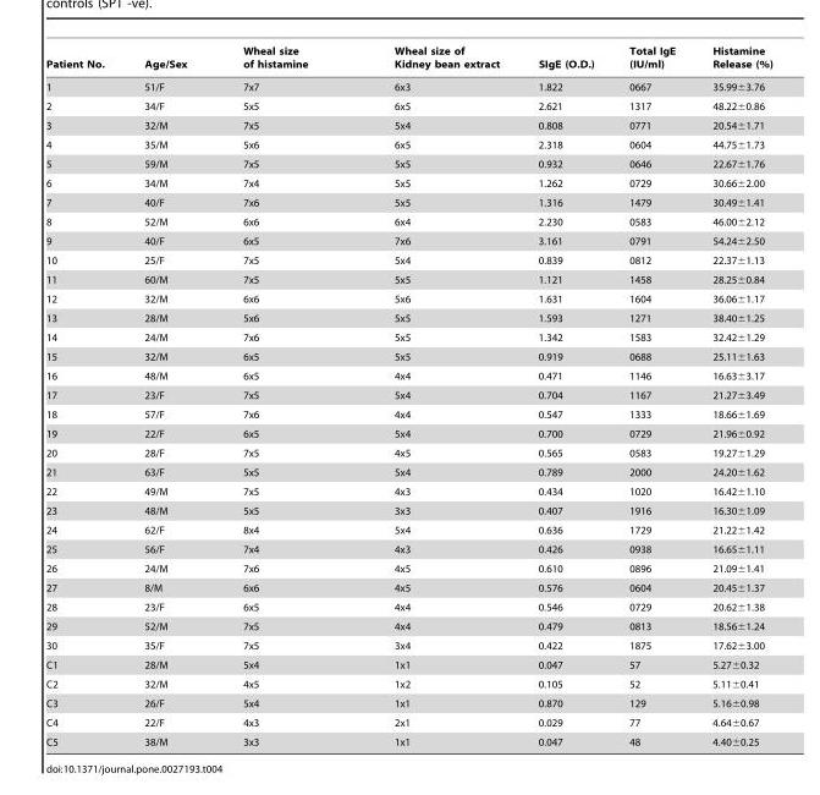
<table><thead><tr><td>Patient No.</td><td>Age/Sex</td><td>Wheal size of histamine</td><td>Wheal size of Kidney bean extract</td><td>SIgE (O.D.)</td><td>Total IgE (IU/ml)</td><td>Histamine Release (%)</td></tr></thead><tbody><tr><td>1</td><td>51/F</td><td>7x7</td><td>6x3</td><td>1.822</td><td>0667</td><td>35.99±3.76</td></tr><tr><td>2</td><td>34/F</td><td>5x5</td><td>6x5</td><td>2.621</td><td>1317</td><td>48.22±0.86</td></tr><tr><td>3</td><td>32/M</td><td>7x5</td><td>5x4</td><td>0.808</td><td>0771</td><td>20.54±1.71</td></tr><tr><td>4</td><td>35/M</td><td>5x6</td><td>6x5</td><td>2.318</td><td>0604</td><td>44.75±1.73</td></tr><tr><td>5</td><td>59/M</td><td>7x5</td><td>5x5</td><td>0.932</td><td>0646</td><td>22.67±1.76</td></tr><tr><td>6</td><td>34/M</td><td>7x4</td><td>5x5</td><td>1.262</td><td>0729</td><td>30.66±2.00</td></tr><tr><td>7</td><td>40/F</td><td>7x6</td><td>5x5</td><td>1.316</td><td>1479</td><td>30.49±1.41</td></tr><tr><td>8</td><td>52/M</td><td>6x6</td><td>6x4</td><td>2.230</td><td>0583</td><td>46.00±2.12</td></tr><tr><td>9</td><td>40/F</td><td>6x5</td><td>7x6</td><td>3.161</td><td>0791</td><td>54.24±2.50</td></tr><tr><td>10</td><td>25/F</td><td>7x5</td><td>5x4</td><td>0.839</td><td>0812</td><td>22.37±1.13</td></tr><tr><td>11</td><td>60/M</td><td>7x5</td><td>5x5</td><td>1.121</td><td>1458</td><td>28.25±0.84</td></tr><tr><td>12</td><td>32/M</td><td>6x6</td><td>5x6</td><td>1.631</td><td>1604</td><td>36.06±1.17</td></tr><tr><td>13</td><td>28/M</td><td>5x6</td><td>5x5</td><td>1.593</td><td>1271</td><td>38.40±1.25</td></tr><tr><td>14</td><td>24/M</td><td>7x6</td><td>5x5</td><td>1.342</td><td>1583</td><td>32.42±1.29</td></tr><tr><td>15</td><td>32/M</td><td>6x5</td><td>5x5</td><td>0.919</td><td>0688</td><td>25.11±1.63</td></tr><tr><td>16</td><td>48/M</td><td>6x5</td><td>4x4</td><td>0.471</td><td>1146</td><td>16.63±3.17</td></tr><tr><td>17</td><td>23/F</td><td>7x5</td><td>5x4</td><td>0.704</td><td>1167</td><td>21.27±3.49</td></tr><tr><td>18</td><td>57/F</td><td>7x6</td><td>4x4</td><td>0.547</td><td>1333</td><td>18.66±1.69</td></tr><tr><td>19</td><td>22/F</td><td>6x5</td><td>5x4</td><td>0.700</td><td>0729</td><td>21.96±0.92</td></tr><tr><td>20</td><td>28/F</td><td>7x5</td><td>4x5</td><td>0.565</td><td>0583</td><td>19.27±1.29</td></tr><tr><td>21</td><td>63/F</td><td>5x5</td><td>5x4</td><td>0.789</td><td>2000</td><td>24.20±1.62</td></tr><tr><td>22</td><td>49/M</td><td>7x5</td><td>4x3</td><td>0.434</td><td>1020</td><td>16.42±1.10</td></tr><tr><td>23</td><td>48/M</td><td>5x5</td><td>3x3</td><td>0.407</td><td>1916</td><td>16.30±1.09</td></tr><tr><td>24</td><td>62/F</td><td>8x4</td><td>5x4</td><td>0.636</td><td>1729</td><td>21.22±1.42</td></tr><tr><td>25</td><td>56/F</td><td>7x4</td><td>4x3</td><td>0.426</td><td>0938</td><td>16.65±1.11</td></tr><tr><td>26</td><td>24/M</td><td>7x6</td><td>4x5</td><td>0.610</td><td>0896</td><td>21.09±1.41</td></tr><tr><td>27</td><td>8/M</td><td>6x6</td><td>4x5</td><td>0.576</td><td>0604</td><td>20.45±1.37</td></tr><tr><td>28</td><td>23/F</td><td>6x5</td><td>4x4</td><td>0.546</td><td>0729</td><td>20.62±1.38</td></tr><tr><td>29</td><td>52/M</td><td>7x5</td><td>4x4</td><td>0.479</td><td>0813</td><td>18.56±1.24</td></tr><tr><td>30</td><td>35/F</td><td>7x5</td><td>3x4</td><td>0.422</td><td>1875</td><td>17.62±3.00</td></tr><tr><td>C1</td><td>28/M</td><td>5x4</td><td>1x1</td><td>0.047</td><td>57</td><td>5.27±0.32</td></tr><tr><td>C2</td><td>32/M</td><td>4x5</td><td>1x2</td><td>0.105</td><td>52</td><td>5.11±0.41</td></tr><tr><td>C3</td><td>26/F</td><td>5x4</td><td>1x1</td><td>0.870</td><td>129</td><td>5.16±0.98</td></tr><tr><td>C4</td><td>22/F</td><td>4x3</td><td>2x1</td><td>0.029</td><td>77</td><td>4.64±0.67</td></tr><tr><td>C5</td><td>38/M</td><td>3x3</td><td>1x1</td><td>0.047</td><td>48</td><td>4.40±0.25</td></tr></tbody></table>